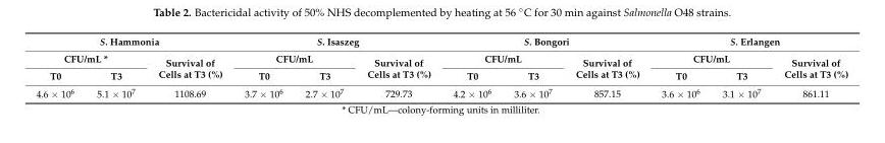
<table><thead><tr><td colspan="3">S. Hammonia</td><td colspan="3">S. Isaszeg</td><td colspan="3">S. Bongori</td><td colspan="3">S. Erlangen</td></tr><tr><td colspan="2">CFU/mL *</td><td rowspan="2">Survival of Cells at T3 (%)</td><td colspan="2">CFU/mL</td><td rowspan="2">Survival of Cells at T3 (%)</td><td colspan="2">CFU/mL</td><td rowspan="2">Survival of Cells at T3 (%)</td><td colspan="2">CFU/mL</td><td rowspan="2">Survival of Cells at T3 (%)</td></tr><tr><td>T0</td><td>T3</td><td>T0</td><td>T3</td><td>T0</td><td>T3</td><td>T0</td><td>T3</td></tr></thead><tbody><tr><td>4.6 × 10<sup>6</sup></td><td>5.1 × 10<sup>7</sup></td><td>1108.69</td><td>3.7 × 10<sup>6</sup></td><td>2.7 × 10<sup>7</sup></td><td>729.73</td><td>4.2 × 10<sup>6</sup></td><td>3.6 × 10<sup>7</sup></td><td>857.15</td><td>3.6 × 10<sup>6</sup></td><td>3.1 × 10<sup>7</sup></td><td>861.11</td></tr></tbody></table>